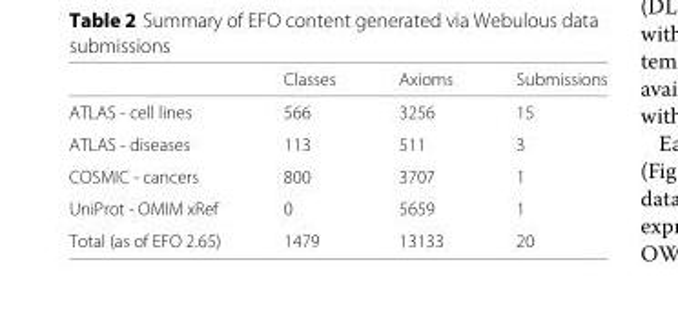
<table><thead><tr><td></td><td>Classes</td><td>Axioms</td><td>Submissions</td></tr></thead><tbody><tr><td>ATLAS - cell lines</td><td>566</td><td>3256</td><td>15</td></tr><tr><td>ATLAS - diseases</td><td>113</td><td>511</td><td>3</td></tr><tr><td>COSMIC - cancers</td><td>800</td><td>3707</td><td>1</td></tr><tr><td>UniProt - OMIM xRef</td><td>0</td><td>5659</td><td>1</td></tr><tr><td>Total (as of EFO 2.65)</td><td>1479</td><td>13133</td><td>20</td></tr></tbody></table>